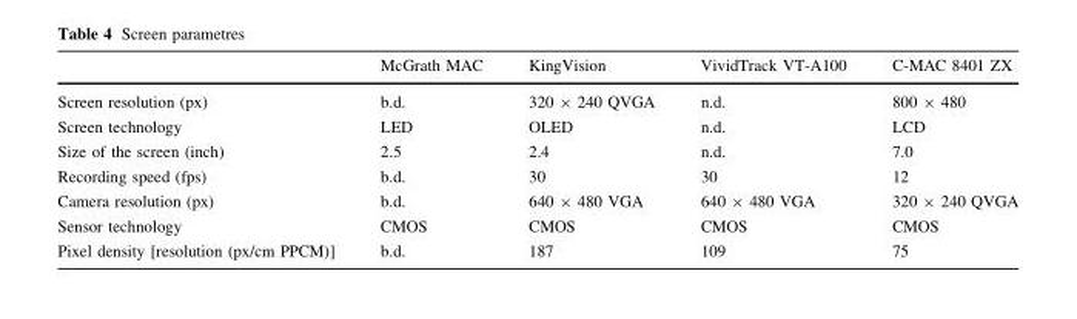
<table><thead><tr><td></td><td>McGrath MAC</td><td>KingVision</td><td>VividTrack VT-A100</td><td>C-MAC 8401 ZX</td></tr></thead><tbody><tr><td>Screen resolution (px)</td><td>b.d.</td><td>320 × 240 QVGA</td><td>n.d.</td><td>800 × 480</td></tr><tr><td>Screen technology</td><td>LED</td><td>OLED</td><td>n.d.</td><td>LCD</td></tr><tr><td>Size of the screen (inch)</td><td>2.5</td><td>2.4</td><td>n.d.</td><td>7.0</td></tr><tr><td>Recording speed (fps)</td><td>b.d.</td><td>30</td><td>30</td><td>12</td></tr><tr><td>Camera resolution (px)</td><td>b.d.</td><td>640 × 480 VGA</td><td>640 × 480 VGA</td><td>320 × 240 QVGA</td></tr><tr><td>Sensor technology</td><td>CMOS</td><td>CMOS</td><td>CMOS</td><td>CMOS</td></tr><tr><td>Pixel density [resolution (px/cm PPCM)]</td><td>b.d.</td><td>187</td><td>109</td><td>75</td></tr></tbody></table>